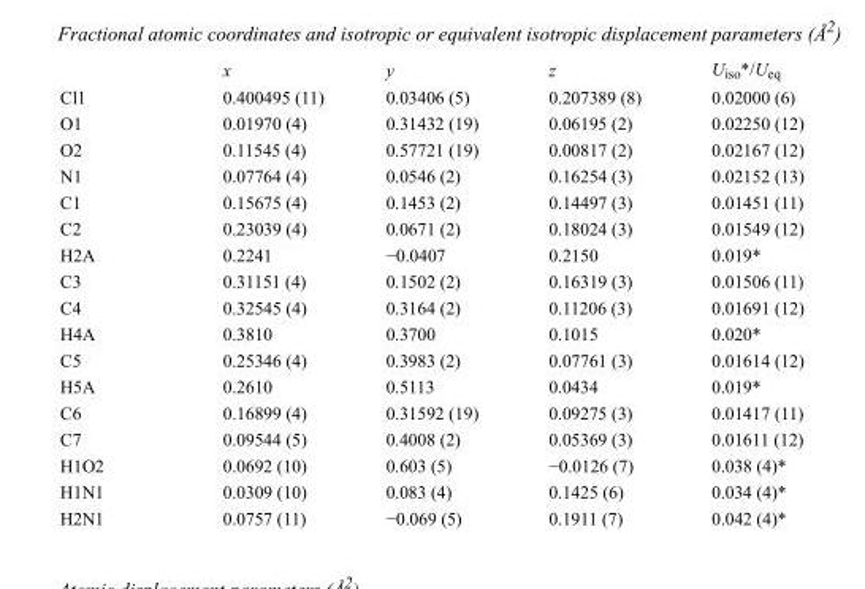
<table><thead><tr><td></td><td>x</td><td>y</td><td>z</td><td>U<sub>iso</sub>*/U<sub>eq</sub></td></tr></thead><tbody><tr><td>Cl1</td><td>0.400495 (11)</td><td>0.03406 (5)</td><td>0.207389 (8)</td><td>0.02000 (6)</td></tr><tr><td>O1</td><td>0.01970 (4)</td><td>0.31432 (19)</td><td>0.06195 (2)</td><td>0.02250 (12)</td></tr><tr><td>O2</td><td>0.11545 (4)</td><td>0.57721 (19)</td><td>0.00817 (2)</td><td>0.02167 (12)</td></tr><tr><td>N1</td><td>0.07764 (4)</td><td>0.0546 (2)</td><td>0.16254 (3)</td><td>0.02152 (13)</td></tr><tr><td>C1</td><td>0.15675 (4)</td><td>0.1453 (2)</td><td>0.14497 (3)</td><td>0.01451 (11)</td></tr><tr><td>C2</td><td>0.23039 (4)</td><td>0.0671 (2)</td><td>0.18024 (3)</td><td>0.01549 (12)</td></tr><tr><td>H2A</td><td>0.2241</td><td>−0.0407</td><td>0.2150</td><td>0.019*</td></tr><tr><td>C3</td><td>0.31151 (4)</td><td>0.1502 (2)</td><td>0.16319 (3)</td><td>0.01506 (11)</td></tr><tr><td>C4</td><td>0.32545 (4)</td><td>0.3164 (2)</td><td>0.11206 (3)</td><td>0.01691 (12)</td></tr><tr><td>H4A</td><td>0.3810</td><td>0.3700</td><td>0.1015</td><td>0.020*</td></tr><tr><td>C5</td><td>0.25346 (4)</td><td>0.3983 (2)</td><td>0.07761 (3)</td><td>0.01614 (12)</td></tr><tr><td>H5A</td><td>0.2610</td><td>0.5113</td><td>0.0434</td><td>0.019*</td></tr><tr><td>C6</td><td>0.16899 (4)</td><td>0.31592 (19)</td><td>0.09275 (3)</td><td>0.01417 (11)</td></tr><tr><td>C7</td><td>0.09544 (5)</td><td>0.4008 (2)</td><td>0.05369 (3)</td><td>0.01611 (12)</td></tr><tr><td>H1O2</td><td>0.0692 (10)</td><td>0.603 (5)</td><td>−0.0126 (7)</td><td>0.038 (4)*</td></tr><tr><td>H1N1</td><td>0.0309 (10)</td><td>0.083 (4)</td><td>0.1425 (6)</td><td>0.034 (4)*</td></tr><tr><td>H2N1</td><td>0.0757 (11)</td><td>−0.069 (5)</td><td>0.1911 (7)</td><td>0.042 (4)*</td></tr></tbody></table>